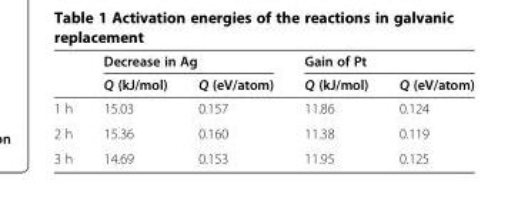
<table><thead><tr><td rowspan="2"></td><td colspan="2">Decrease in Ag</td><td colspan="2">Gain of Pt</td></tr><tr><td>Q (kJ/mol)</td><td>Q (eV/atom)</td><td>Q (kJ/mol)</td><td>Q (eV/atom)</td></tr></thead><tbody><tr><td>1 h</td><td>15.03</td><td>0.157</td><td>11.86</td><td>0.124</td></tr><tr><td>2 h</td><td>15.36</td><td>0.160</td><td>11.38</td><td>0.119</td></tr><tr><td>3 h</td><td>14.69</td><td>0.153</td><td>11.95</td><td>0.125</td></tr></tbody></table>